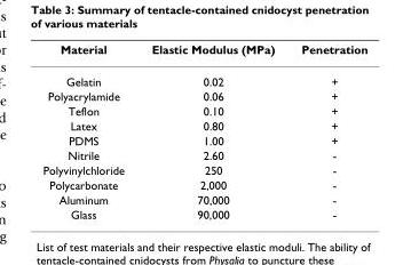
<table><thead><tr><td>Material</td><td>Elastic Modulus (MPa)</td><td>Penetration</td></tr></thead><tbody><tr><td>Gelatin</td><td>0.02</td><td>+</td></tr><tr><td>Polyacrylamide</td><td>0.06</td><td>+</td></tr><tr><td>Teflon</td><td>0.10</td><td>+</td></tr><tr><td>Latex</td><td>0.80</td><td>+</td></tr><tr><td>PDMS</td><td>1.00</td><td>+</td></tr><tr><td>Nitrile</td><td>2.60</td><td>-</td></tr><tr><td>Polyvinylchloride</td><td>250</td><td>-</td></tr><tr><td>Polycarbonate</td><td>2,000</td><td>-</td></tr><tr><td>Aluminum</td><td>70,000</td><td>-</td></tr><tr><td>Glass</td><td>90,000</td><td>-</td></tr></tbody></table>